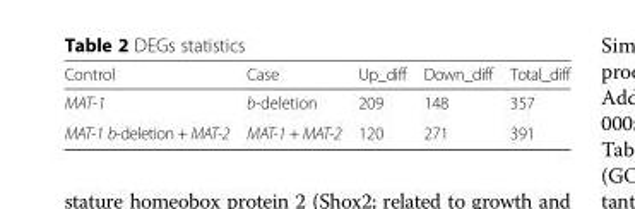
<table><thead><tr><td>Control</td><td>Case</td><td>Up_diff</td><td>Down_diff</td><td>Total_diff</td></tr></thead><tbody><tr><td>MAT-1</td><td>b-deletion</td><td>209</td><td>148</td><td>357</td></tr><tr><td>MAT-1 b-deletion + MAT-2</td><td>MAT-1 + MAT-2</td><td>120</td><td>271</td><td>391</td></tr></tbody></table>